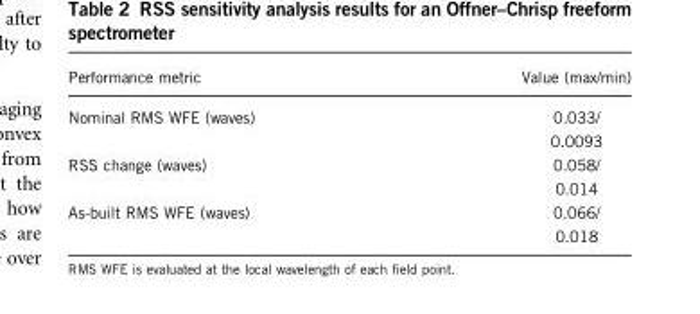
<table><thead><tr><td>Performance metric</td><td>Value (max/min)</td></tr></thead><tbody><tr><td rowspan="2">Nominal RMS WFE (waves)</td><td>0.033/</td></tr><tr><td>0.0093</td></tr><tr><td rowspan="2">RSS change (waves)</td><td>0.058/</td></tr><tr><td>0.014</td></tr><tr><td rowspan="2">As-built RMS WFE (waves)</td><td>0.066/</td></tr><tr><td>0.018</td></tr></tbody></table>